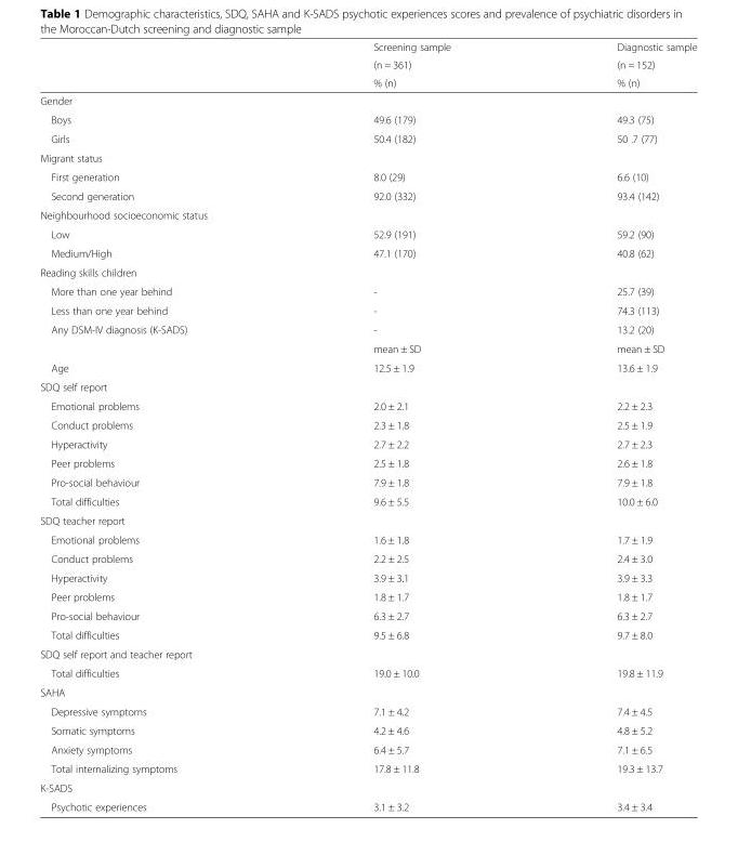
<table><thead><tr><td rowspan="3"></td><td rowspan="3">Screening sample (n = 361) % (n)</td><td rowspan="3">Diagnostic sample (n = 152) % (n)</td></tr><tr></tr><tr></tr></thead><tbody><tr><td colspan="3">Gender</td></tr><tr><td>Boys</td><td>49.6 (179)</td><td>49.3 (75)</td></tr><tr><td>Girls</td><td>50.4 (182)</td><td>50 .7 (77)</td></tr><tr><td colspan="3">Migrant status</td></tr><tr><td>First generation</td><td>8.0 (29)</td><td>6.6 (10)</td></tr><tr><td>Second generation</td><td>92.0 (332)</td><td>93.4 (142)</td></tr><tr><td colspan="3">Neighbourhood socioeconomic status</td></tr><tr><td>Low</td><td>52.9 (191)</td><td>59.2 (90)</td></tr><tr><td>Medium/High</td><td>47.1 (170)</td><td>40.8 (62)</td></tr><tr><td colspan="3">Reading skills children</td></tr><tr><td>More than one year behind</td><td>-</td><td>25.7 (39)</td></tr><tr><td>Less than one year behind</td><td>-</td><td>74.3 (113)</td></tr><tr><td rowspan="2">Any DSM-IV diagnosis (K-SADS)</td><td>-</td><td>13.2 (20)</td></tr><tr><td>mean ± SD</td><td>mean ± SD</td></tr><tr><td>Age</td><td>12.5 ± 1.9</td><td>13.6 ± 1.9</td></tr><tr><td colspan="3">SDQ self report</td></tr><tr><td>Emotional problems</td><td>2.0 ± 2.1</td><td>2.2 ± 2.3</td></tr><tr><td>Conduct problems</td><td>2.3 ± 1.8</td><td>2.5 ± 1.9</td></tr><tr><td>Hyperactivity</td><td>2.7 ± 2.2</td><td>2.7 ± 2.3</td></tr><tr><td>Peer problems</td><td>2.5 ± 1.8</td><td>2.6 ± 1.8</td></tr><tr><td>Pro-social behaviour</td><td>7.9 ± 1.8</td><td>7.9 ± 1.8</td></tr><tr><td>Total difficulties</td><td>9.6 ± 5.5</td><td>10.0 ± 6.0</td></tr><tr><td colspan="3">SDQ teacher report</td></tr><tr><td>Emotional problems</td><td>1.6 ± 1.8</td><td>1.7 ± 1.9</td></tr><tr><td>Conduct problems</td><td>2.2 ± 2.5</td><td>2.4 ± 3.0</td></tr><tr><td>Hyperactivity</td><td>3.9 ± 3.1</td><td>3.9 ± 3.3</td></tr><tr><td>Peer problems</td><td>1.8 ± 1.7</td><td>1.8 ± 1.7</td></tr><tr><td>Pro-social behaviour</td><td>6.3 ± 2.7</td><td>6.3 ± 2.7</td></tr><tr><td>Total difficulties</td><td>9.5 ± 6.8</td><td>9.7 ± 8.0</td></tr><tr><td colspan="3">SDQ self report and teacher report</td></tr><tr><td>Total difficulties</td><td>19.0 ± 10.0</td><td>19.8 ± 11.9</td></tr><tr><td colspan="3">SAHA</td></tr><tr><td>Depressive symptoms</td><td>7.1 ± 4.2</td><td>7.4 ± 4.5</td></tr><tr><td>Somatic symptoms</td><td>4.2 ± 4.6</td><td>4.8 ± 5.2</td></tr><tr><td>Anxiety symptoms</td><td>6.4 ± 5.7</td><td>7.1 ± 6.5</td></tr><tr><td>Total internalizing symptoms</td><td>17.8 ± 11.8</td><td>19.3 ± 13.7</td></tr><tr><td colspan="3">K-SADS</td></tr><tr><td>Psychotic experiences</td><td>3.1 ± 3.2</td><td>3.4 ± 3.4</td></tr></tbody></table>